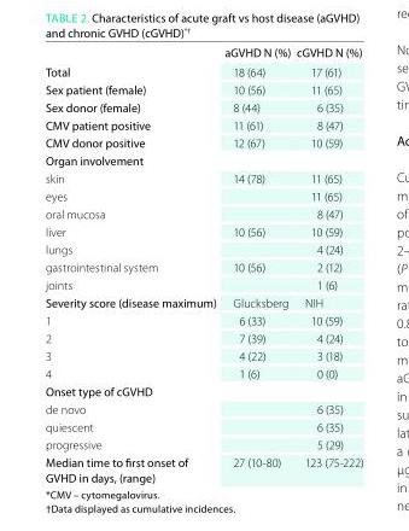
<table><thead><tr><td></td><td>aGVHd n (%)</td><td>cGVHd n (%)</td></tr></thead><tbody><tr><td>total</td><td>18 (64)</td><td>17 (61)</td></tr><tr><td>sex patient (female)</td><td>10 (56)</td><td>11 (65)</td></tr><tr><td>sex donor (female)</td><td>8 (44)</td><td>6 (35)</td></tr><tr><td>CmV patient positive</td><td>11 (61)</td><td>8 (47)</td></tr><tr><td>CmV donor positive</td><td>12 (67)</td><td>10 (59)</td></tr><tr><td colspan="3">Organ involvement</td></tr><tr><td>skin</td><td>14 (78)</td><td>11 (65)</td></tr><tr><td>eyes</td><td></td><td>11 (65)</td></tr><tr><td>oral mucosa</td><td></td><td>8 (47)</td></tr><tr><td>liver</td><td>10 (56)</td><td>10 (59)</td></tr><tr><td>lungs</td><td></td><td>4 (24)</td></tr><tr><td>gastrointestinal system</td><td>10 (56)</td><td>2 (12)</td></tr><tr><td>joints</td><td></td><td>1 (6)</td></tr><tr><td>severity score (disease maximum)</td><td>Glucksberg</td><td>NIH</td></tr><tr><td>1</td><td>6 (33)</td><td>10 (59)</td></tr><tr><td>2</td><td>7 (39)</td><td>4 (24)</td></tr><tr><td>3</td><td>4 (22)</td><td>3 (18)</td></tr><tr><td>4</td><td>1 (6)</td><td>0 (0)</td></tr><tr><td colspan="3">Onset type of cGVHd</td></tr><tr><td>de novo</td><td></td><td>6 (35)</td></tr><tr><td>quiescent</td><td></td><td>6 (35)</td></tr><tr><td>progressive</td><td></td><td>5 (29)</td></tr><tr><td>median time to first onset of GVHd in days, (range)</td><td>27 (10-80)</td><td>123 (75-222)</td></tr></tbody></table>